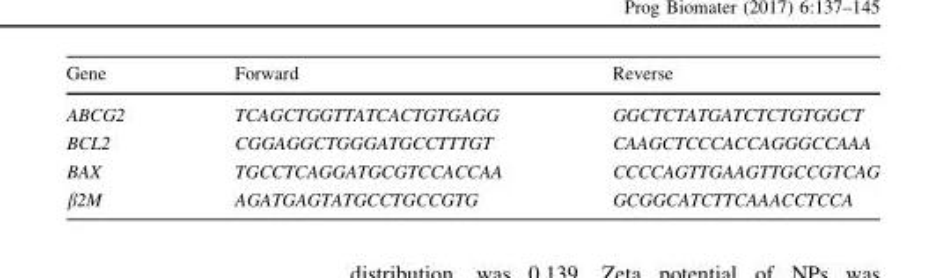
<table><thead><tr><td>Gene</td><td>Forward</td><td>Reverse</td></tr></thead><tbody><tr><td>ABCG2</td><td>TCAGCTGGTTATCACTGTGAGG</td><td>GGCTCTATGATCTCTGTGGCT</td></tr><tr><td>BCL2</td><td>CGGAGGCTGGGATGCCTTTGT</td><td>CAAGCTCCCACCAGGGCCAAA</td></tr><tr><td>BAX</td><td>TGCCTCAGGATGCGTCCACCAA</td><td>CCCCAGTTGAAGTTGCCGTCAG</td></tr><tr><td>β2M</td><td>AGATGAGTATGCCTGCCGTG</td><td>GCGGCATCTTCAAACCTCCA</td></tr></tbody></table>